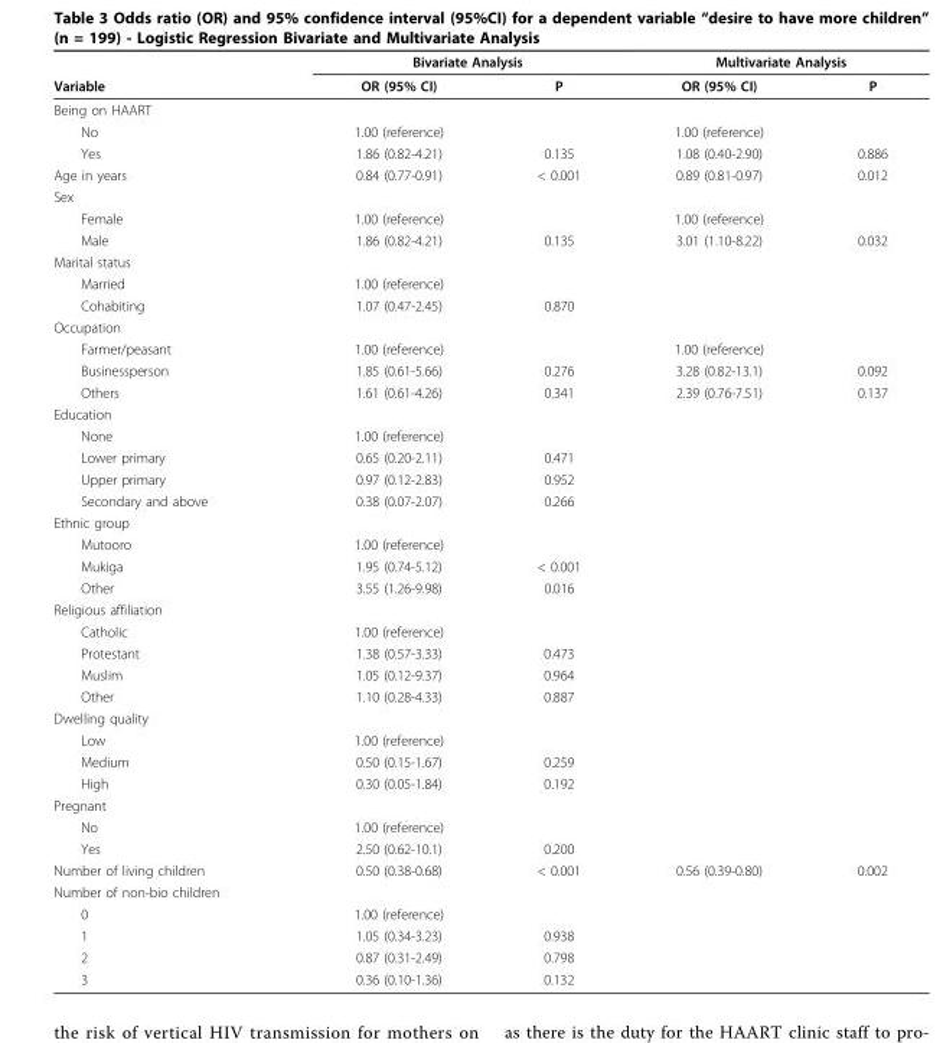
<table><thead><tr><td rowspan="2">Variable</td><td colspan="2">Bivariate Analysis</td><td colspan="2">Multivariate Analysis</td></tr><tr><td>OR (95% CI)</td><td>P</td><td>OR (95% CI)</td><td>P</td></tr></thead><tbody><tr><td colspan="5">Being on HAART</td></tr><tr><td>No</td><td>1.00 (reference)</td><td></td><td>1.00 (reference)</td><td></td></tr><tr><td>Yes</td><td>1.86 (0.82-4.21)</td><td>0.135</td><td>1.08 (0.40-2.90)</td><td>0.886</td></tr><tr><td>Age in years</td><td>0.84 (0.77-0.91)</td><td>&lt; 0.001</td><td>0.89 (0.81-0.97)</td><td>0.012</td></tr><tr><td colspan="5">Sex</td></tr><tr><td>Female</td><td>1.00 (reference)</td><td></td><td>1.00 (reference)</td><td></td></tr><tr><td>Male</td><td>1.86 (0.82-4.21)</td><td>0.135</td><td>3.01 (1.10-8.22)</td><td>0.032</td></tr><tr><td colspan="5">Marital status</td></tr><tr><td>Married</td><td>1.00 (reference)</td><td></td><td></td><td></td></tr><tr><td>Cohabiting</td><td>1.07 (0.47-2.45)</td><td>0.870</td><td></td><td></td></tr><tr><td colspan="5">Occupation</td></tr><tr><td>Farmer/peasant</td><td>1.00 (reference)</td><td></td><td>1.00 (reference)</td><td></td></tr><tr><td>Businessperson</td><td>1.85 (0.61-5.66)</td><td>0.276</td><td>3.28 (0.82-13.1)</td><td>0.092</td></tr><tr><td>Others</td><td>1.61 (0.61-4.26)</td><td>0.341</td><td>2.39 (0.76-7.51)</td><td>0.137</td></tr><tr><td colspan="5">Education</td></tr><tr><td>None</td><td>1.00 (reference)</td><td></td><td></td><td></td></tr><tr><td>Lower primary</td><td>0.65 (0.20-2.11)</td><td>0.471</td><td></td><td></td></tr><tr><td>Upper primary</td><td>0.97 (0.12-2.83)</td><td>0.952</td><td></td><td></td></tr><tr><td>Secondary and above</td><td>0.38 (0.07-2.07)</td><td>0.266</td><td></td><td></td></tr><tr><td colspan="5">Ethnic group</td></tr><tr><td>Mutooro</td><td>1.00 (reference)</td><td></td><td></td><td></td></tr><tr><td>Mukiga</td><td>1.95 (0.74-5.12)</td><td>&lt; 0.001</td><td></td><td></td></tr><tr><td>Other</td><td>3.55 (1.26-9.98)</td><td>0.016</td><td></td><td></td></tr><tr><td colspan="5">Religious affiliation</td></tr><tr><td>Catholic</td><td>1.00 (reference)</td><td></td><td></td><td></td></tr><tr><td>Protestant</td><td>1.38 (0.57-3.33)</td><td>0.473</td><td></td><td></td></tr><tr><td>Muslim</td><td>1.05 (0.12-9.37)</td><td>0.964</td><td></td><td></td></tr><tr><td>Other</td><td>1.10 (0.28-4.33)</td><td>0.887</td><td></td><td></td></tr><tr><td colspan="5">Dwelling quality</td></tr><tr><td>Low</td><td>1.00 (reference)</td><td></td><td></td><td></td></tr><tr><td>Medium</td><td>0.50 (0.15-1.67)</td><td>0.259</td><td></td><td></td></tr><tr><td>High</td><td>0.30 (0.05-1.84)</td><td>0.192</td><td></td><td></td></tr><tr><td colspan="5">Pregnant</td></tr><tr><td>No</td><td>1.00 (reference)</td><td></td><td></td><td></td></tr><tr><td>Yes</td><td>2.50 (0.62-10.1)</td><td>0.200</td><td></td><td></td></tr><tr><td>Number of living children</td><td>0.50 (0.38-0.68)</td><td>&lt; 0.001</td><td>0.56 (0.39-0.80)</td><td>0.002</td></tr><tr><td colspan="5">Number of non-bio children</td></tr><tr><td>0</td><td>1.00 (reference)</td><td></td><td></td><td></td></tr><tr><td>1</td><td>1.05 (0.34-3.23)</td><td>0.938</td><td></td><td></td></tr><tr><td>2</td><td>0.87 (0.31-2.49)</td><td>0.798</td><td></td><td></td></tr><tr><td>3</td><td>0.36 (0.10-1.36)</td><td>0.132</td><td></td><td></td></tr></tbody></table>